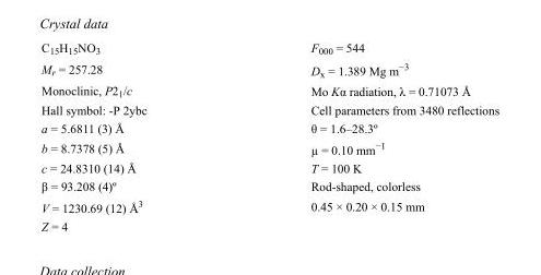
<table><tbody><tr><td>C<sub>15</sub>H<sub>15</sub>NO<sub>3</sub></td><td>F000 = 544</td></tr><tr><td>M<sub>r</sub> = 257.28</td><td>D<sub>x</sub> = 1.389 Mg m<sup>−3</sup></td></tr><tr><td>Monoclinic, P2<sub>1</sub>/c</td><td>Mo Kα radiation, λ = 0.71073 Å</td></tr><tr><td>Hall symbol: -P 2ybc</td><td>Cell parameters from 3480 reflections</td></tr><tr><td>a = 5.6811 (3) Å</td><td>θ = 1.6–28.3º</td></tr><tr><td>b = 8.7378 (5) Å</td><td>µ = 0.10 mm<sup>−1</sup></td></tr><tr><td>c = 24.8310 (14) Å</td><td>T = 100 K</td></tr><tr><td>β = 93.208 (4)º</td><td>Rod-shaped, colorless</td></tr><tr><td>V = 1230.69 (12) Å<sup>3</sup></td><td>0.45 × 0.20 × 0.15 mm</td></tr><tr><td>Z = 4</td><td></td></tr></tbody></table>